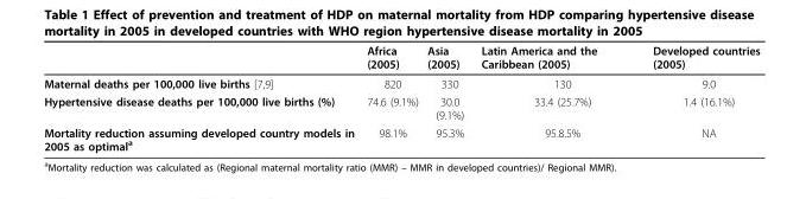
<table><thead><tr><td></td><td>Africa (2005)</td><td>Asia (2005)</td><td>Latin America and the Caribbean (2005)</td><td>Developed countries (2005)</td></tr></thead><tbody><tr><td>Maternal deaths per 100,000 live births [7,9]</td><td>820</td><td>330</td><td>130</td><td>9.0</td></tr><tr><td>Hypertensive disease deaths per 100,000 live births (%)</td><td>74.6 (9.1%)</td><td>30.0 (9.1%)</td><td>33.4 (25.7%)</td><td>1.4 (16.1%)</td></tr><tr><td>Mortality reduction assuming developed country models in 2005 as optimal<sup>a</sup></td><td>98.1%</td><td>95.3%</td><td>95.8.5%</td><td>NA</td></tr></tbody></table>